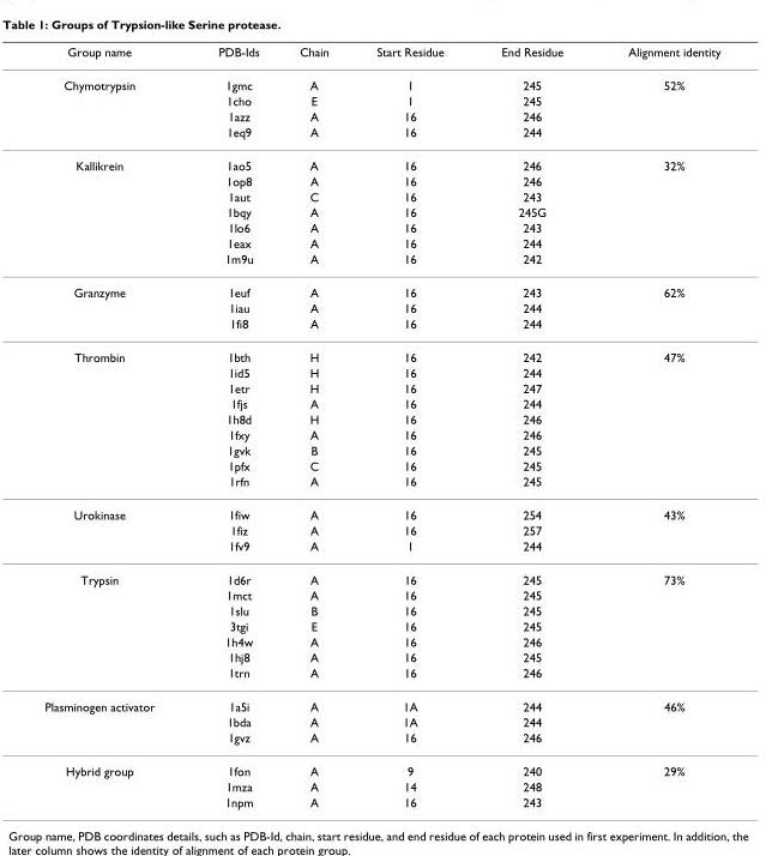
<table><thead><tr><td>Group name</td><td>PDB-Ids</td><td>Chain</td><td>Start Residue</td><td>End Residue</td><td>Alignment identity</td></tr></thead><tbody><tr><td rowspan="4">Chymotrypsin</td><td>1gmc</td><td>A</td><td>1</td><td>245</td><td>52%</td></tr><tr><td>1cho</td><td>E</td><td>1</td><td>245</td><td></td></tr><tr><td>1azz</td><td>A</td><td>16</td><td>246</td><td></td></tr><tr><td>1eq9</td><td>A</td><td>16</td><td>244</td><td></td></tr><tr><td rowspan="7">Kallikrein</td><td>1ao5</td><td>A</td><td>16</td><td>246</td><td>32%</td></tr><tr><td>1op8</td><td>A</td><td>16</td><td>246</td><td></td></tr><tr><td>1aut</td><td>C</td><td>16</td><td>243</td><td></td></tr><tr><td>1bqy</td><td>A</td><td>16</td><td>245G</td><td></td></tr><tr><td>1lo6</td><td>A</td><td>16</td><td>243</td><td></td></tr><tr><td>1eax</td><td>A</td><td>16</td><td>244</td><td></td></tr><tr><td>1m9u</td><td>A</td><td>16</td><td>242</td><td></td></tr><tr><td rowspan="3">Granzyme</td><td>1euf</td><td>A</td><td>16</td><td>243</td><td>62%</td></tr><tr><td>1iau</td><td>A</td><td>16</td><td>244</td><td></td></tr><tr><td>1fi8</td><td>A</td><td>16</td><td>244</td><td></td></tr><tr><td rowspan="9">Thrombin</td><td>1bth</td><td>H</td><td>16</td><td>242</td><td>47%</td></tr><tr><td>1id5</td><td>H</td><td>16</td><td>244</td><td></td></tr><tr><td>1etr</td><td>H</td><td>16</td><td>247</td><td></td></tr><tr><td>1fjs</td><td>A</td><td>16</td><td>244</td><td></td></tr><tr><td>1h8d</td><td>H</td><td>16</td><td>246</td><td></td></tr><tr><td>1fxy</td><td>A</td><td>16</td><td>246</td><td></td></tr><tr><td>1gvk</td><td>B</td><td>16</td><td>245</td><td></td></tr><tr><td>1pfx</td><td>C</td><td>16</td><td>245</td><td></td></tr><tr><td>1rfn</td><td>A</td><td>16</td><td>245</td><td></td></tr><tr><td rowspan="3">Urokinase</td><td>1fiw</td><td>A</td><td>16</td><td>254</td><td>43%</td></tr><tr><td>1fiz</td><td>A</td><td>16</td><td>257</td><td></td></tr><tr><td>1fv9</td><td>A</td><td>1</td><td>244</td><td></td></tr><tr><td rowspan="7">Trypsin</td><td>1d6r</td><td>A</td><td>16</td><td>245</td><td>73%</td></tr><tr><td>1mct</td><td>A</td><td>16</td><td>245</td><td></td></tr><tr><td>1slu</td><td>B</td><td>16</td><td>245</td><td></td></tr><tr><td>3tgi</td><td>E</td><td>16</td><td>245</td><td></td></tr><tr><td>1h4w</td><td>A</td><td>16</td><td>246</td><td></td></tr><tr><td>1hj8</td><td>A</td><td>16</td><td>245</td><td></td></tr><tr><td>1trn</td><td>A</td><td>16</td><td>246</td><td></td></tr><tr><td rowspan="3">Plasminogen activator</td><td>1a5i</td><td>A</td><td>1A</td><td>244</td><td>46%</td></tr><tr><td>1bda</td><td>A</td><td>1A</td><td>244</td><td></td></tr><tr><td>1gvz</td><td>A</td><td>16</td><td>246</td><td></td></tr><tr><td rowspan="3">Hybrid group</td><td>1fon</td><td>A</td><td>9</td><td>240</td><td>29%</td></tr><tr><td>1mza</td><td>A</td><td>14</td><td>248</td><td></td></tr><tr><td>1npm</td><td>A</td><td>16</td><td>243</td><td></td></tr></tbody></table>